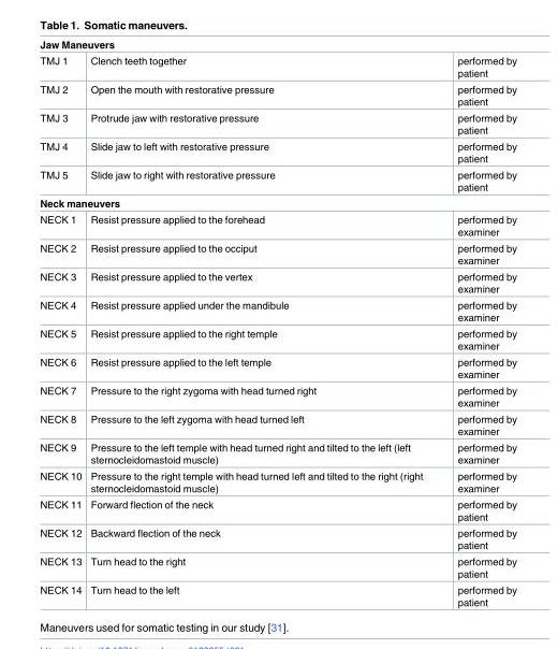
<table><tbody><tr><td colspan="3">Jaw Maneuvers</td></tr><tr><td>TMJ 1</td><td>Clench teeth together</td><td>performed by patient</td></tr><tr><td>TMJ 2</td><td>Open the mouth with restorative pressure</td><td>performed by patient</td></tr><tr><td>TMJ 3</td><td>Protrude jaw with restorative pressure</td><td>performed by patient</td></tr><tr><td>TMJ 4</td><td>Slide jaw to left with restorative pressure</td><td>performed by patient</td></tr><tr><td>TMJ 5</td><td>Slide jaw to right with restorative pressure</td><td>performed by patient</td></tr><tr><td colspan="3">Neck maneuvers</td></tr><tr><td>NECK 1</td><td>Resist pressure applied to the forehead</td><td>performed by examiner</td></tr><tr><td>NECK 2</td><td>Resist pressure applied to the occiput</td><td>performed by examiner</td></tr><tr><td>NECK 3</td><td>Resist pressure applied to the vertex</td><td>performed by examiner</td></tr><tr><td>NECK 4</td><td>Resist pressure applied under the mandibule</td><td>performed by examiner</td></tr><tr><td>NECK 5</td><td>Resist pressure applied to the right temple</td><td>performed by examiner</td></tr><tr><td>NECK 6</td><td>Resist pressure applied to the left temple</td><td>performed by examiner</td></tr><tr><td>NECK 7</td><td>Pressure to the right zygoma with head turned right</td><td>performed by examiner</td></tr><tr><td>NECK 8</td><td>Pressure to the left zygoma with head turned left</td><td>performed by examiner</td></tr><tr><td>NECK 9</td><td>Pressure to the left temple with head turned right and tilted to the left (left sternocleidomastoid muscle)</td><td>performed by examiner</td></tr><tr><td>NECK 10</td><td>Pressure to the right temple with head turned left and tilted to the right (right sternocleidomastoid muscle)</td><td>performed by examiner</td></tr><tr><td>NECK 11</td><td>Forward flection of the neck</td><td>performed by patient</td></tr><tr><td>NECK 12</td><td>Backward flection of the neck</td><td>performed by patient</td></tr><tr><td>NECK 13</td><td>Turn head to the right</td><td>performed by patient</td></tr><tr><td>NECK 14</td><td>Turn head to the left</td><td>performed by patient</td></tr></tbody></table>